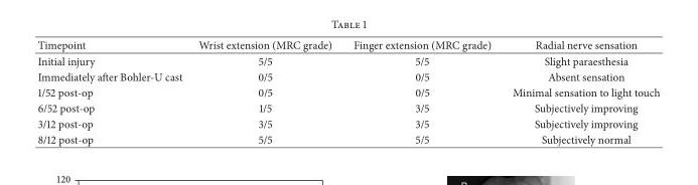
<table><thead><tr><td>Timepoint</td><td>Wrist extension (MRC grade)</td><td>Finger extension (MRC grade)</td><td>Radial nerve sensation</td></tr></thead><tbody><tr><td>Initial injury</td><td>5/5</td><td>5/5</td><td>Slight paraesthesia</td></tr><tr><td>Immediately after Bohler-U cast</td><td>0/5</td><td>0/5</td><td>Absent sensation</td></tr><tr><td>1/52 post-op</td><td>0/5</td><td>0/5</td><td>Minimal sensation to light touch</td></tr><tr><td>6/52 post-op</td><td>1/5</td><td>3/5</td><td>Subjectively improving</td></tr><tr><td>3/12 post-op</td><td>3/5</td><td>3/5</td><td>Subjectively improving</td></tr><tr><td>8/12 post-op</td><td>5/5</td><td>5/5</td><td>Subjectively normal</td></tr></tbody></table>